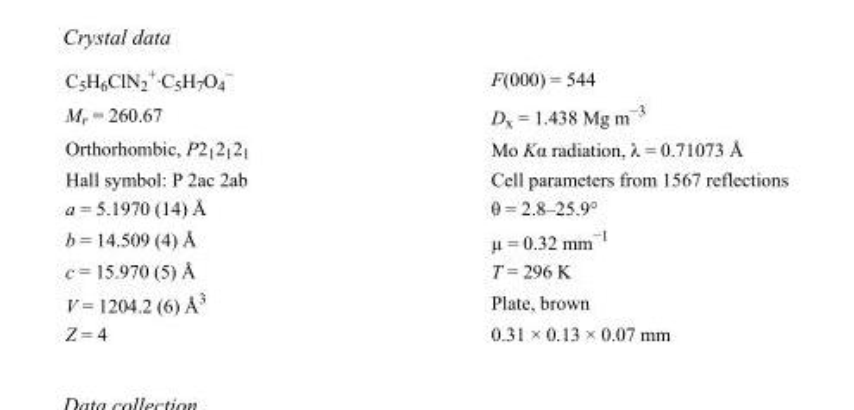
<table><tbody><tr><td>C<sub>5</sub>H<sub>6</sub>ClN<sub>2</sub> <sup>+</sup>·C<sub>5</sub>H<sub>7</sub>O<sub>4</sub> <sup>−</sup></td><td>F(000) = 544</td></tr><tr><td>M<sub>r</sub> = 260.67</td><td>D<sub>x</sub> = 1.438 Mg m<sup>−3</sup></td></tr><tr><td>Orthorhombic, P2<sub>1</sub>2<sub>1</sub>2<sub>1</sub></td><td>Mo Kα radiation, λ = 0.71073 Å</td></tr><tr><td>Hall symbol: P 2ac 2ab</td><td>Cell parameters from 1567 reflections</td></tr><tr><td>a = 5.1970 (14) Å</td><td>θ = 2.8–25.9°</td></tr><tr><td>b = 14.509 (4) Å</td><td>µ = 0.32 mm<sup>−1</sup></td></tr><tr><td>c = 15.970 (5) Å</td><td>T = 296 K</td></tr><tr><td>V = 1204.2 (6) Å<sup>3</sup></td><td>Plate, brown</td></tr><tr><td>Z = 4</td><td>0.31 × 0.13 × 0.07 mm</td></tr></tbody></table>